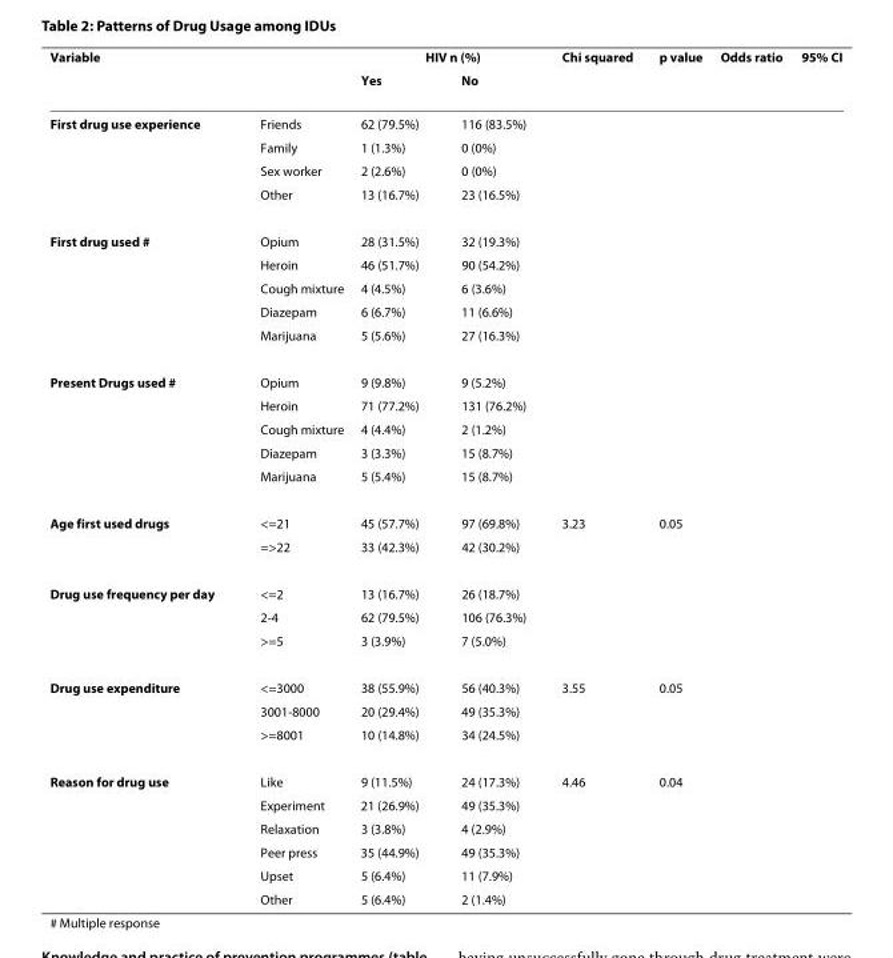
<table><thead><tr><td rowspan="2">Variable</td><td rowspan="2"></td><td colspan="2">HIV n (%)</td><td rowspan="2">Chi squared</td><td rowspan="2">p value</td><td rowspan="2">Odds ratio</td><td rowspan="2">95% CI</td></tr><tr><td>Yes</td><td>No</td></tr></thead><tbody><tr><td rowspan="4">First drug use experience</td><td>Friends</td><td>62 (79.5%)</td><td>116 (83.5%)</td><td></td><td></td><td></td><td></td></tr><tr><td>Family</td><td>1 (1.3%)</td><td>0 (0%)</td><td></td><td></td><td></td><td></td></tr><tr><td>Sex worker</td><td>2 (2.6%)</td><td>0 (0%)</td><td></td><td></td><td></td><td></td></tr><tr><td>Other</td><td>13 (16.7%)</td><td>23 (16.5%)</td><td></td><td></td><td></td><td></td></tr><tr><td rowspan="5">First drug used #</td><td>Opium</td><td>28 (31.5%)</td><td>32 (19.3%)</td><td></td><td></td><td></td><td></td></tr><tr><td>Heroin</td><td>46 (51.7%)</td><td>90 (54.2%)</td><td></td><td></td><td></td><td></td></tr><tr><td>Cough mixture</td><td>4 (4.5%)</td><td>6 (3.6%)</td><td></td><td></td><td></td><td></td></tr><tr><td>Diazepam</td><td>6 (6.7%)</td><td>11 (6.6%)</td><td></td><td></td><td></td><td></td></tr><tr><td>Marijuana</td><td>5 (5.6%)</td><td>27 (16.3%)</td><td></td><td></td><td></td><td></td></tr><tr><td rowspan="5">Present Drugs used #</td><td>Opium</td><td>9 (9.8%)</td><td>9 (5.2%)</td><td></td><td></td><td></td><td></td></tr><tr><td>Heroin</td><td>71 (77.2%)</td><td>131 (76.2%)</td><td></td><td></td><td></td><td></td></tr><tr><td>Cough mixture</td><td>4 (4.4%)</td><td>2 (1.2%)</td><td></td><td></td><td></td><td></td></tr><tr><td>Diazepam</td><td>3 (3.3%)</td><td>15 (8.7%)</td><td></td><td></td><td></td><td></td></tr><tr><td>Marijuana</td><td>5 (5.4%)</td><td>15 (8.7%)</td><td></td><td></td><td></td><td></td></tr><tr><td rowspan="2">Age first used drugs</td><td>&lt;=21</td><td>45 (57.7%)</td><td>97 (69.8%)</td><td>3.23</td><td>0.05</td><td></td><td></td></tr><tr><td>=&gt;22</td><td>33 (42.3%)</td><td>42 (30.2%)</td><td></td><td></td><td></td><td></td></tr><tr><td rowspan="3">Drug use frequency per day</td><td>&lt;=2</td><td>13 (16.7%)</td><td>26 (18.7%)</td><td></td><td></td><td></td><td></td></tr><tr><td>2-4</td><td>62 (79.5%)</td><td>106 (76.3%)</td><td></td><td></td><td></td><td></td></tr><tr><td>&gt;=5</td><td>3 (3.9%)</td><td>7 (5.0%)</td><td></td><td></td><td></td><td></td></tr><tr><td rowspan="3">Drug use expenditure</td><td>&lt;=3000</td><td>38 (55.9%)</td><td>56 (40.3%)</td><td>3.55</td><td>0.05</td><td></td><td></td></tr><tr><td>3001-8000</td><td>20 (29.4%)</td><td>49 (35.3%)</td><td></td><td></td><td></td><td></td></tr><tr><td>&gt;=8001</td><td>10 (14.8%)</td><td>34 (24.5%)</td><td></td><td></td><td></td><td></td></tr><tr><td rowspan="6">Reason for drug use</td><td>Like</td><td>9 (11.5%)</td><td>24 (17.3%)</td><td>4.46</td><td>0.04</td><td></td><td></td></tr><tr><td>Experiment</td><td>21 (26.9%)</td><td>49 (35.3%)</td><td></td><td></td><td></td><td></td></tr><tr><td>Relaxation</td><td>3 (3.8%)</td><td>4 (2.9%)</td><td></td><td></td><td></td><td></td></tr><tr><td>Peer press</td><td>35 (44.9%)</td><td>49 (35.3%)</td><td></td><td></td><td></td><td></td></tr><tr><td>Upset</td><td>5 (6.4%)</td><td>11 (7.9%)</td><td></td><td></td><td></td><td></td></tr><tr><td>Other</td><td>5 (6.4%)</td><td>2 (1.4%)</td><td></td><td></td><td></td><td></td></tr></tbody></table>